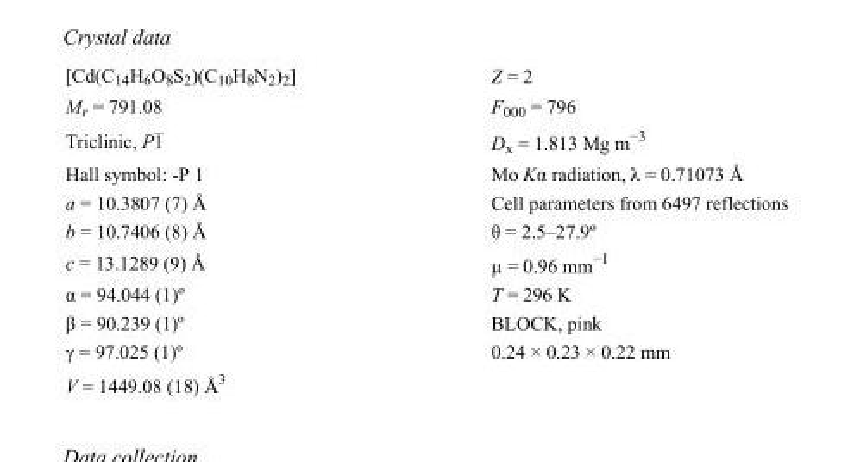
<table><tbody><tr><td>[Cd(C<sub>14</sub>H<sub>6</sub>O<sub>8</sub>S<sub>2</sub>)(C<sub>10</sub>H<sub>8</sub>N<sub>2</sub>)<sub>2</sub>]</td><td>Z = 2</td></tr><tr><td>M<sub>r</sub> = 791.08</td><td>F000 = 796</td></tr><tr><td>Triclinic, P1</td><td>D<sub>x</sub> = 1.813 Mg m<sup>−3</sup></td></tr><tr><td>Hall symbol: -P 1</td><td>Mo Kα radiation, λ = 0.71073 Å</td></tr><tr><td>a = 10.3807 (7) Å</td><td>Cell parameters from 6497 reflections</td></tr><tr><td>b = 10.7406 (8) Å</td><td>θ = 2.5–27.9º</td></tr><tr><td>c = 13.1289 (9) Å</td><td>µ = 0.96 mm<sup>−1</sup></td></tr><tr><td>α = 94.044 (1)º</td><td>T = 296 K</td></tr><tr><td>β = 90.239 (1)º</td><td>BLOCK, pink</td></tr><tr><td>γ = 97.025 (1)º</td><td>0.24 × 0.23 × 0.22 mm</td></tr><tr><td>V = 1449.08 (18) Å<sup>3</sup></td><td></td></tr></tbody></table>